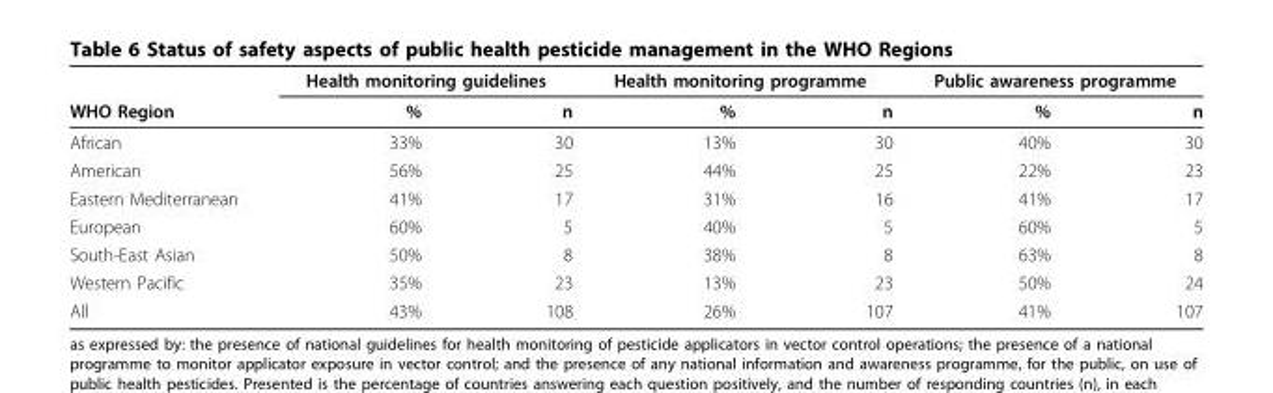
<table><thead><tr><td rowspan="2">WHO Region</td><td colspan="2">Health monitoring guidelines</td><td colspan="2">Health monitoring programme</td><td colspan="2">Public awareness programme</td></tr><tr><td>%</td><td>n</td><td>%</td><td>n</td><td>%</td><td>n</td></tr></thead><tbody><tr><td>African</td><td>33%</td><td>30</td><td>13%</td><td>30</td><td>40%</td><td>30</td></tr><tr><td>American</td><td>56%</td><td>25</td><td>44%</td><td>25</td><td>22%</td><td>23</td></tr><tr><td>Eastern Mediterranean</td><td>41%</td><td>17</td><td>31%</td><td>16</td><td>41%</td><td>17</td></tr><tr><td>European</td><td>60%</td><td>5</td><td>40%</td><td>5</td><td>60%</td><td>5</td></tr><tr><td>South-East Asian</td><td>50%</td><td>8</td><td>38%</td><td>8</td><td>63%</td><td>8</td></tr><tr><td>Western Pacific</td><td>35%</td><td>23</td><td>13%</td><td>23</td><td>50%</td><td>24</td></tr><tr><td>All</td><td>43%</td><td>108</td><td>26%</td><td>107</td><td>41%</td><td>107</td></tr></tbody></table>